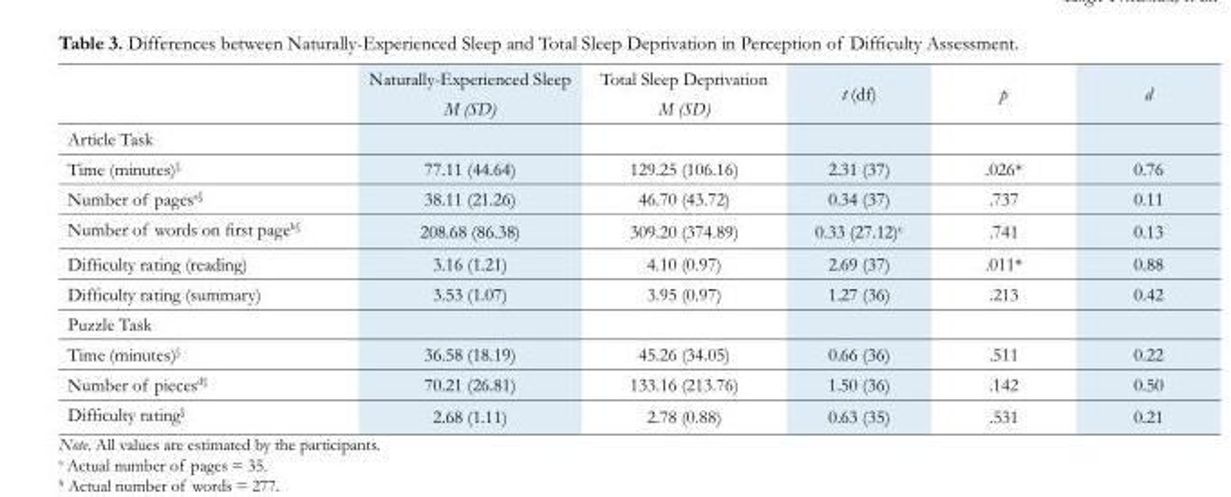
<table><thead><tr><td rowspan="2"></td><td rowspan="2">Naturally-Experienced Sleep M (SD)</td><td rowspan="2">Total Sleep Deprivation M (SD)</td><td rowspan="2">t (df)</td><td rowspan="2">p</td><td rowspan="2">d</td></tr><tr></tr></thead><tbody><tr><td colspan="6">Article Task</td></tr><tr><td>Time (minutes)<sup>§</sup></td><td>77.11 (44.64)</td><td>129.25 (106.16)</td><td>2.31 (37)</td><td>.026*</td><td>0.76</td></tr><tr><td>Number of pages<sup>a§</sup></td><td>38.11 (21.26)</td><td>46.70 (43.72)</td><td>0.34 (37)</td><td>.737</td><td>0.11</td></tr><tr><td>Number of words on first page<sup>b§</sup></td><td>208.68 (86.38)</td><td>309.20 (374.89)</td><td>0.33 (27.12)<sup>c</sup></td><td>.741</td><td>0.13</td></tr><tr><td>Difficulty rating (reading)</td><td>3.16 (1.21)</td><td>4.10 (0.97)</td><td>2.69 (37)</td><td>.011*</td><td>0.88</td></tr><tr><td>Difficulty rating (summary)</td><td>3.53 (1.07)</td><td>3.95 (0.97)</td><td>1.27 (36)</td><td>.213</td><td>0.42</td></tr><tr><td colspan="6">Puzzle Task</td></tr><tr><td>Time (minutes)<sup>§</sup></td><td>36.58 (18.19)</td><td>45.26 (34.05)</td><td>0.66 (36)</td><td>.511</td><td>0.22</td></tr><tr><td>Number of pieces<sup>d§</sup></td><td>70.21 (26.81)</td><td>133.16 (213.76)</td><td>1.50 (36)</td><td>.142</td><td>0.50</td></tr><tr><td>Difficulty rating<sup>§</sup></td><td>2.68 (1.11)</td><td>2.78 (0.88)</td><td>0.63 (35)</td><td>.531</td><td>0.21</td></tr></tbody></table>